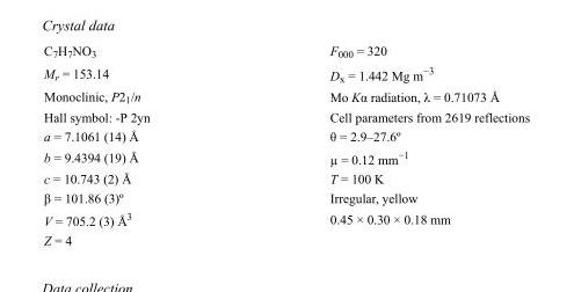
<table><tbody><tr><td>C<sub>7</sub>H<sub>7</sub>NO<sub>3</sub></td><td>F000 = 320</td></tr><tr><td>M<sub>r</sub> = 153.14</td><td>D<sub>x</sub> = 1.442 Mg m<sup>−3</sup></td></tr><tr><td>Monoclinic, P2<sub>1</sub>/n</td><td>Mo Kα radiation, λ = 0.71073 Å</td></tr><tr><td>Hall symbol: -P 2yn</td><td>Cell parameters from 2619 reflections</td></tr><tr><td>a = 7.1061 (14) Å</td><td>θ = 2.9–27.6º</td></tr><tr><td>b = 9.4394 (19) Å</td><td>µ = 0.12 mm<sup>−1</sup></td></tr><tr><td>c = 10.743 (2) Å</td><td>T = 100 K</td></tr><tr><td>β = 101.86 (3)º</td><td>Irregular, yellow</td></tr><tr><td>V = 705.2 (3) Å<sup>3</sup></td><td>0.45 × 0.30 × 0.18 mm</td></tr><tr><td>Z = 4</td><td></td></tr></tbody></table>